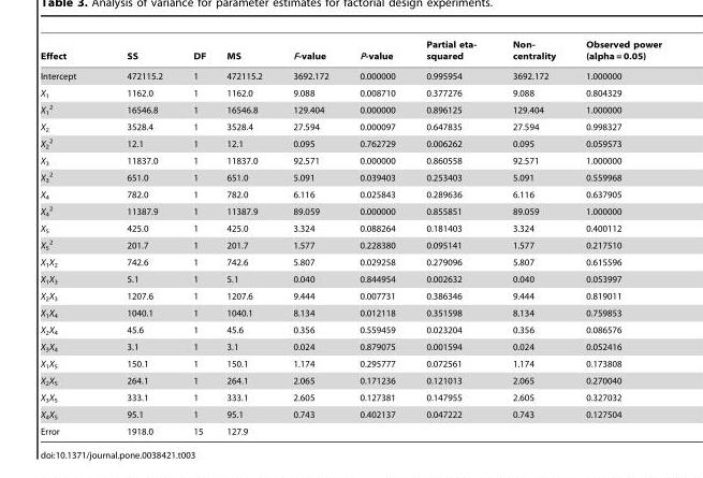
<table><thead><tr><td>Effect</td><td>SS</td><td>DF</td><td>MS</td><td>F-value</td><td>P-value</td><td>Partial eta- squared</td><td>Non- centrality</td><td>Observed power (alpha = 0.05)</td></tr></thead><tbody><tr><td>Intercept</td><td>472115.2</td><td>1</td><td>472115.2</td><td>3692.172</td><td>0.000000</td><td>0.995954</td><td>3692.172</td><td>1.000000</td></tr><tr><td>X<sub>1</sub></td><td>1162.0</td><td>1</td><td>1162.0</td><td>9.088</td><td>0.008710</td><td>0.377276</td><td>9.088</td><td>0.804329</td></tr><tr><td>X<sub>1</sub> <sup>2</sup></td><td>16546.8</td><td>1</td><td>16546.8</td><td>129.404</td><td>0.000000</td><td>0.896125</td><td>129.404</td><td>1.000000</td></tr><tr><td>X<sub>2</sub></td><td>3528.4</td><td>1</td><td>3528.4</td><td>27.594</td><td>0.000097</td><td>0.647835</td><td>27.594</td><td>0.998327</td></tr><tr><td>X<sub>2</sub> <sup>2</sup></td><td>12.1</td><td>1</td><td>12.1</td><td>0.095</td><td>0.762729</td><td>0.006262</td><td>0.095</td><td>0.059573</td></tr><tr><td>X<sub>3</sub></td><td>11837.0</td><td>1</td><td>11837.0</td><td>92.571</td><td>0.000000</td><td>0.860558</td><td>92.571</td><td>1.000000</td></tr><tr><td>X<sub>3</sub> <sup>2</sup></td><td>651.0</td><td>1</td><td>651.0</td><td>5.091</td><td>0.039403</td><td>0.253403</td><td>5.091</td><td>0.559968</td></tr><tr><td>X<sub>4</sub></td><td>782.0</td><td>1</td><td>782.0</td><td>6.116</td><td>0.025843</td><td>0.289636</td><td>6.116</td><td>0.637905</td></tr><tr><td>X<sub>4</sub> <sup>2</sup></td><td>11387.9</td><td>1</td><td>11387.9</td><td>89.059</td><td>0.000000</td><td>0.855851</td><td>89.059</td><td>1.000000</td></tr><tr><td>X<sub>5</sub></td><td>425.0</td><td>1</td><td>425.0</td><td>3.324</td><td>0.088264</td><td>0.181403</td><td>3.324</td><td>0.400112</td></tr><tr><td>X<sub>5</sub> <sup>2</sup></td><td>201.7</td><td>1</td><td>201.7</td><td>1.577</td><td>0.228380</td><td>0.095141</td><td>1.577</td><td>0.217510</td></tr><tr><td>X<sub>1</sub>X<sub>2</sub></td><td>742.6</td><td>1</td><td>742.6</td><td>5.807</td><td>0.029258</td><td>0.279096</td><td>5.807</td><td>0.615596</td></tr><tr><td>X<sub>1</sub>X<sub>3</sub></td><td>5.1</td><td>1</td><td>5.1</td><td>0.040</td><td>0.844954</td><td>0.002632</td><td>0.040</td><td>0.053997</td></tr><tr><td>X<sub>2</sub>X<sub>3</sub></td><td>1207.6</td><td>1</td><td>1207.6</td><td>9.444</td><td>0.007731</td><td>0.386346</td><td>9.444</td><td>0.819011</td></tr><tr><td>X<sub>1</sub>X<sub>4</sub></td><td>1040.1</td><td>1</td><td>1040.1</td><td>8.134</td><td>0.012118</td><td>0.351598</td><td>8.134</td><td>0.759853</td></tr><tr><td>X<sub>2</sub>X<sub>4</sub></td><td>45.6</td><td>1</td><td>45.6</td><td>0.356</td><td>0.559459</td><td>0.023204</td><td>0.356</td><td>0.086576</td></tr><tr><td>X<sub>3</sub>X<sub>4</sub></td><td>3.1</td><td>1</td><td>3.1</td><td>0.024</td><td>0.879075</td><td>0.001594</td><td>0.024</td><td>0.052416</td></tr><tr><td>X<sub>1</sub>X<sub>5</sub></td><td>150.1</td><td>1</td><td>150.1</td><td>1.174</td><td>0.295777</td><td>0.072561</td><td>1.174</td><td>0.173808</td></tr><tr><td>X<sub>2</sub>X<sub>5</sub></td><td>264.1</td><td>1</td><td>264.1</td><td>2.065</td><td>0.171236</td><td>0.121013</td><td>2.065</td><td>0.270040</td></tr><tr><td>X<sub>3</sub>X<sub>5</sub></td><td>333.1</td><td>1</td><td>333.1</td><td>2.605</td><td>0.127381</td><td>0.147955</td><td>2.605</td><td>0.327032</td></tr><tr><td>X<sub>4</sub>X<sub>5</sub></td><td>95.1</td><td>1</td><td>95.1</td><td>0.743</td><td>0.402137</td><td>0.047222</td><td>0.743</td><td>0.127504</td></tr><tr><td>Error</td><td>1918.0</td><td>15</td><td>127.9</td><td></td><td></td><td></td><td></td><td></td></tr></tbody></table>